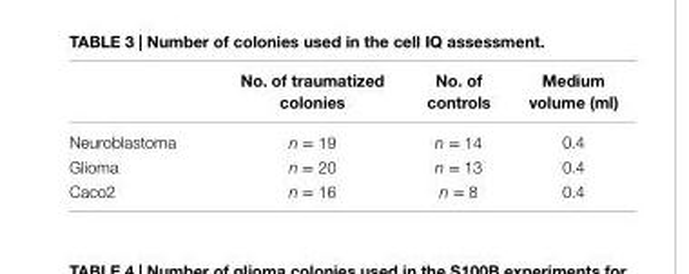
<table><thead><tr><td></td><td>no. of traumatized colonies</td><td>no. of controls</td><td>Medium volume (ml)</td></tr></thead><tbody><tr><td>Neuroblastoma</td><td>n = 19</td><td>n = 14</td><td>0.4</td></tr><tr><td>Glioma</td><td>n = 20</td><td>n = 13</td><td>0.4</td></tr><tr><td>Caco2</td><td>n = 16</td><td>n = 8</td><td>0.4</td></tr></tbody></table>